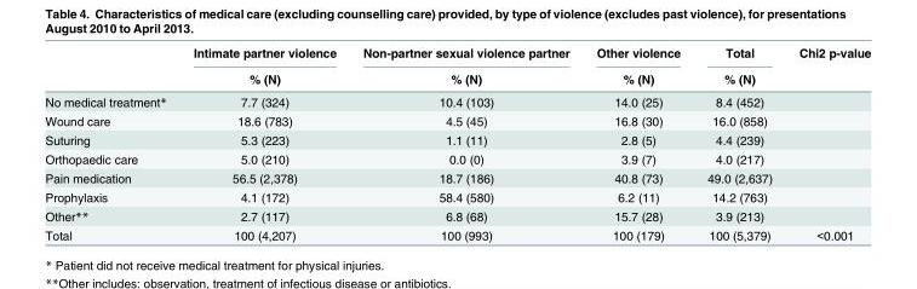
<table><thead><tr><td rowspan="2"></td><td rowspan="2">Intimate partner violence % (N)</td><td rowspan="2">Non-partner sexual violence partner % (N)</td><td rowspan="2">Other violence % (N)</td><td rowspan="2">Total % (N)</td><td rowspan="2">Chi2 p-value</td></tr><tr></tr></thead><tbody><tr><td>No medical treatment*</td><td>7.7 (324)</td><td>10.4 (103)</td><td>14.0 (25)</td><td>8.4 (452)</td><td></td></tr><tr><td>Wound care</td><td>18.6 (783)</td><td>4.5 (45)</td><td>16.8 (30)</td><td>16.0 (858)</td><td></td></tr><tr><td>Suturing</td><td>5.3 (223)</td><td>1.1 (11)</td><td>2.8 (5)</td><td>4.4 (239)</td><td></td></tr><tr><td>Orthopaedic care</td><td>5.0 (210)</td><td>0.0 (0)</td><td>3.9 (7)</td><td>4.0 (217)</td><td></td></tr><tr><td>Pain medication</td><td>56.5 (2,378)</td><td>18.7 (186)</td><td>40.8 (73)</td><td>49.0 (2,637)</td><td></td></tr><tr><td>Prophylaxis</td><td>4.1 (172)</td><td>58.4 (580)</td><td>6.2 (11)</td><td>14.2 (763)</td><td></td></tr><tr><td>Other**</td><td>2.7 (117)</td><td>6.8 (68)</td><td>15.7 (28)</td><td>3.9 (213)</td><td></td></tr><tr><td>Total</td><td>100 (4,207)</td><td>100 (993)</td><td>100 (179)</td><td>100 (5,379)</td><td>&lt;0.001</td></tr></tbody></table>